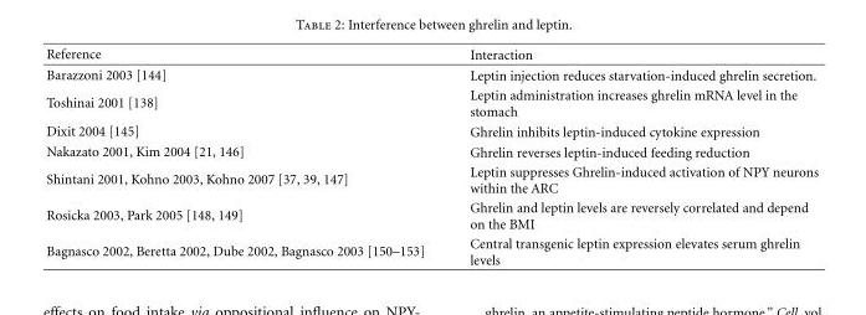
<table><thead><tr><td>Reference</td><td>Interaction</td></tr></thead><tbody><tr><td>Barazzoni 2003 [144]</td><td>Leptin injection reduces starvation-induced ghrelin secretion.</td></tr><tr><td>Toshinai 2001 [138]</td><td>Leptin administration increases ghrelin mRNA level in the stomach</td></tr><tr><td>Dixit 2004 [145]</td><td>Ghrelin inhibits leptin-induced cytokine expression</td></tr><tr><td>Nakazato 2001, Kim 2004 [21, 146]</td><td>Ghrelin reverses leptin-induced feeding reduction</td></tr><tr><td>Shintani 2001, Kohno 2003, Kohno 2007 [37, 39, 147]</td><td>Leptin suppresses Ghrelin-induced activation of NPY neurons within the ARC</td></tr><tr><td>Rosicka 2003, Park 2005 [148, 149]</td><td>Ghrelin and leptin levels are reversely correlated and depend on the BMI</td></tr><tr><td>Bagnasco 2002, Beretta 2002, Dube 2002, Bagnasco 2003 [150–153]</td><td>Central transgenic leptin expression elevates serum ghrelin levels</td></tr></tbody></table>